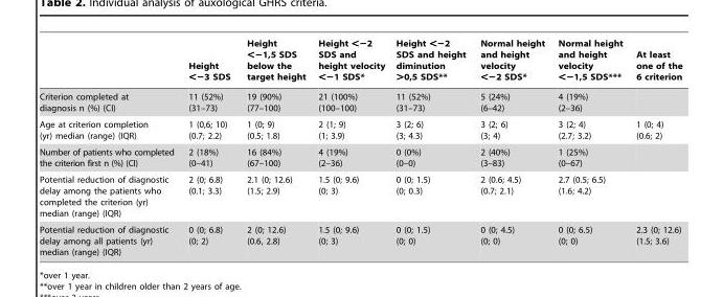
<table><thead><tr><td></td><td>Height &lt;−3 SDS</td><td>Height &lt;−1,5 SDS below the target height</td><td>Height &lt;−2 SDS and height velocity &lt;−1 SDS*</td><td>Height &lt;−2 SDS and height diminution &gt;0,5 SDS**</td><td>Normal height and height velocity &lt;−2 SDS*</td><td>Normal height and height velocity &lt;−1,5 SDS***</td><td>At least one of the 6 criterion</td></tr></thead><tbody><tr><td>Criterion completed at diagnosis n (%) (CI)</td><td>11 (52%) (31–73)</td><td>19 (90%) (77–100)</td><td>21 (100%) (100–100)</td><td>11 (52%) (31–73)</td><td>5 (24%) (6–42)</td><td>4 (19%) (2–36)</td><td></td></tr><tr><td>Age at criterion completion (yr) median (range) (IQR)</td><td>1 (0,6; 10) (0.7; 2.2)</td><td>1 (0; 9) (0.5; 1.8)</td><td>2 (1; 9) (1; 3.9)</td><td>3 (2; 6) (3; 4.3)</td><td>3 (2; 6) (3; 4)</td><td>3 (2; 4) (2.7; 3.2)</td><td>1 (0; 4) (0.6; 2)</td></tr><tr><td>Number of patients who completed the criterion first n (%) (CI)</td><td>2 (18%) (0–41)</td><td>16 (84%) (67–100)</td><td>4 (19%) (2–36)</td><td>0 (0%) (0–0)</td><td>2 (40%) (3–83)</td><td>1 (25%) (0–67)</td><td></td></tr><tr><td>Potential reduction of diagnostic delay among the patients who completed the criterion (yr) median (range) (IQR)</td><td>2 (0; 6.8) (0.1; 3.3)</td><td>2.1 (0; 12.6) (1.5; 2.9)</td><td>1.5 (0; 9.6) (0; 3)</td><td>0 (0; 1.5) (0; 0.3)</td><td>2 (0.6; 4.5) (0.7; 2.1)</td><td>2.7 (0.5; 6.5) (1.6; 4.2)</td><td></td></tr><tr><td>Potential reduction of diagnostic delay among all patients (yr) median (range) (IQR)</td><td>0 (0; 6.8) (0; 2)</td><td>2 (0; 12.6) (0.6, 2.8)</td><td>1.5 (0; 9.6) (0; 3)</td><td>0 (0; 1.5) (0; 0)</td><td>0 (0; 4.5) (0; 0)</td><td>0 (0; 6.5) (0; 0)</td><td>2.3 (0; 12.6) (1.5; 3.6)</td></tr></tbody></table>